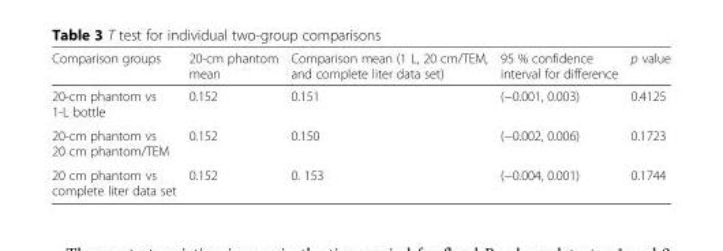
<table><thead><tr><td>Comparison groups</td><td>20-cm phantom mean</td><td>Comparison mean (1 L, 20 cm/TEM, and complete liter data set)</td><td>95 % confidence interval for difference</td><td>p value</td></tr></thead><tbody><tr><td>20-cm phantom vs 1-L bottle</td><td>0.152</td><td>0.151</td><td>(−0.001, 0.003)</td><td>0.4125</td></tr><tr><td>20-cm phantom vs 20 cm phantom/TEM</td><td>0.152</td><td>0.150</td><td>(−0.002, 0.006)</td><td>0.1723</td></tr><tr><td>20 cm phantom vs complete liter data set</td><td>0.152</td><td>0. 153</td><td>(−0.004, 0.001)</td><td>0.1744</td></tr></tbody></table>